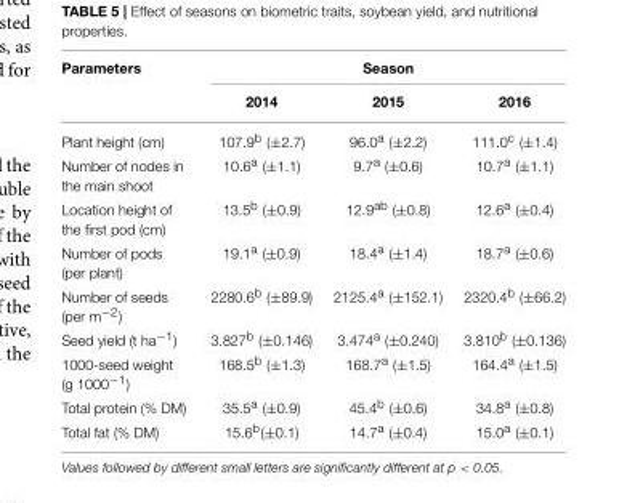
<table><thead><tr><td rowspan="2">Parameters</td><td colspan="3">Season</td></tr><tr><td>2014</td><td>2015</td><td>2016</td></tr></thead><tbody><tr><td>Plant height (cm)</td><td>107.9<sup>b</sup> (±2.7)</td><td>96.0<sup>a</sup> (±2.2)</td><td>111.0<sup>c</sup> (±1.4)</td></tr><tr><td>Number of nodes in the main shoot</td><td>10.6<sup>a</sup> (±1.1)</td><td>9.7<sup>a</sup> (±0.6)</td><td>10.7<sup>a</sup> (±1.1)</td></tr><tr><td>Location height of the first pod (cm)</td><td>13.5<sup>b</sup> (±0.9)</td><td>12.9<sup>ab</sup> (±0.8)</td><td>12.6<sup>a</sup> (±0.4)</td></tr><tr><td>Number of pods (per plant)</td><td>19.1<sup>a</sup> (±0.9)</td><td>18.4<sup>a</sup> (±1.4)</td><td>18.7<sup>a</sup> (±0.6)</td></tr><tr><td>Number of seeds (per m<sup>−2</sup>)</td><td>2280.6<sup>b</sup> (±89.9)</td><td>2125.4<sup>a</sup> (±152.1)</td><td>2320.4<sup>b</sup> (±66.2)</td></tr><tr><td>Seed yield (t ha<sup>−1</sup>)</td><td>3.827<sup>b</sup> (±0.146)</td><td>3.474<sup>a</sup> (±0.240)</td><td>3.810<sup>b</sup> (±0.136)</td></tr><tr><td>1000-seed weight (g 1000<sup>−1</sup>)</td><td>168.5<sup>b</sup> (±1.3)</td><td>168.7<sup>a</sup> (±1.5)</td><td>164.4<sup>a</sup> (±1.5)</td></tr><tr><td>Total protein (% DM)</td><td>35.5<sup>a</sup> (±0.9)</td><td>45.4<sup>b</sup> (±0.6)</td><td>34.8<sup>a</sup> (±0.8)</td></tr><tr><td>Total fat (% DM)</td><td>15.6<sup>b</sup>(±0.1)</td><td>14.7<sup>a</sup> (±0.4)</td><td>15.0<sup>a</sup> (±0.1)</td></tr></tbody></table>